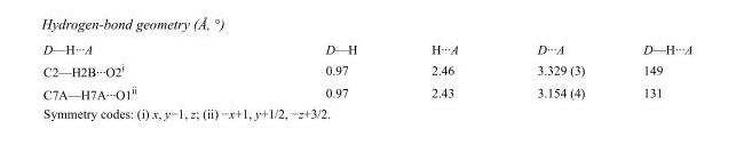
<table><tbody><tr><td>D—H···A</td><td>D—H</td><td>H···A</td><td>D···A</td><td>D—H···A</td></tr><tr><td>C2—H2B···O2<sup>i</sup></td><td>0.97</td><td>2.46</td><td>3.329 (3)</td><td>149</td></tr><tr><td>C7A—H7A···O1<sup>ii</sup></td><td>0.97</td><td>2.43</td><td>3.154 (4)</td><td>131</td></tr></tbody></table>